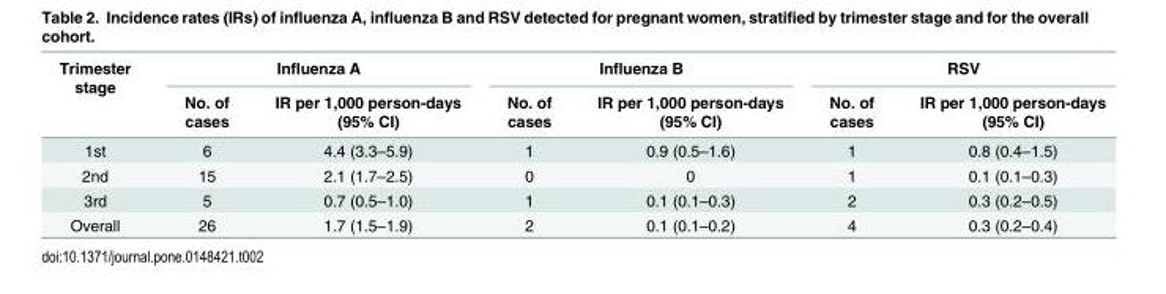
<table><thead><tr><td rowspan="2">Trimester stage</td><td colspan="2">Influenza A</td><td colspan="2">Influenza B</td><td colspan="2">RSV</td></tr><tr><td>No. of cases</td><td>IR per 1,000 person-days (95% CI)</td><td>No. of cases</td><td>IR per 1,000 person-days (95% CI)</td><td>No. of cases</td><td>IR per 1,000 person-days (95% CI)</td></tr></thead><tbody><tr><td>1st</td><td>6</td><td>4.4 (3.3–5.9)</td><td>1</td><td>0.9 (0.5–1.6)</td><td>1</td><td>0.8 (0.4–1.5)</td></tr><tr><td>2nd</td><td>15</td><td>2.1 (1.7–2.5)</td><td>0</td><td>0</td><td>1</td><td>0.1 (0.1–0.3)</td></tr><tr><td>3rd</td><td>5</td><td>0.7 (0.5–1.0)</td><td>1</td><td>0.1 (0.1–0.3)</td><td>2</td><td>0.3 (0.2–0.5)</td></tr><tr><td>Overall</td><td>26</td><td>1.7 (1.5–1.9)</td><td>2</td><td>0.1 (0.1–0.2)</td><td>4</td><td>0.3 (0.2–0.4)</td></tr></tbody></table>